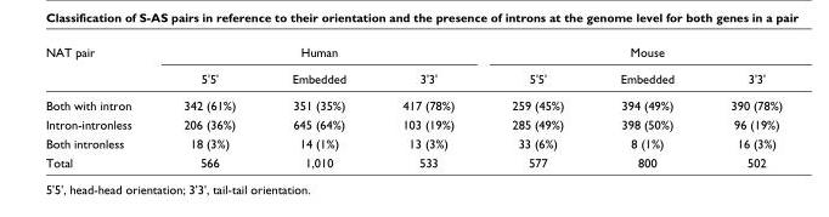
<table><thead><tr><td rowspan="2">NAT pair</td><td colspan="3">Human</td><td colspan="3">Mouse</td></tr><tr><td>5&#x27;5&#x27;</td><td>Embedded</td><td>3&#x27;3&#x27;</td><td>5&#x27;5&#x27;</td><td>Embedded</td><td>3&#x27;3&#x27;</td></tr></thead><tbody><tr><td>Both with intron</td><td>342 (61%)</td><td>351 (35%)</td><td>417 (78%)</td><td>259 (45%)</td><td>394 (49%)</td><td>390 (78%)</td></tr><tr><td>Intron-intronless</td><td>206 (36%)</td><td>645 (64%)</td><td>103 (19%)</td><td>285 (49%)</td><td>398 (50%)</td><td>96 (19%)</td></tr><tr><td>Both intronless</td><td>18 (3%)</td><td>14 (1%)</td><td>13 (3%)</td><td>33 (6%)</td><td>8 (1%)</td><td>16 (3%)</td></tr><tr><td>Total</td><td>566</td><td>1,010</td><td>533</td><td>577</td><td>800</td><td>502</td></tr></tbody></table>